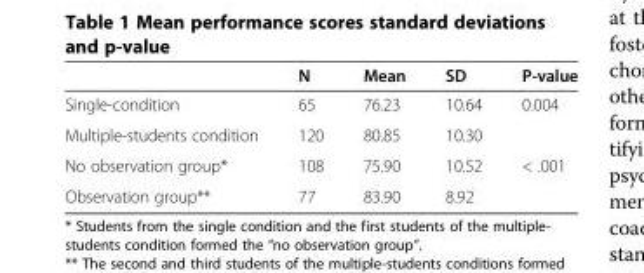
<table><thead><tr><td></td><td>N</td><td>Mean</td><td>SD</td><td>P-value</td></tr></thead><tbody><tr><td>Single-condition</td><td>65</td><td>76.23</td><td>10.64</td><td rowspan="2">0.004</td></tr><tr><td>Multiple-students condition</td><td>120</td><td>80.85</td><td>10.30</td></tr><tr><td>No observation group*</td><td>108</td><td>75.90</td><td>10.52</td><td>&lt; .001</td></tr><tr><td>Observation group**</td><td>77</td><td>83.90</td><td>8.92</td><td></td></tr></tbody></table>